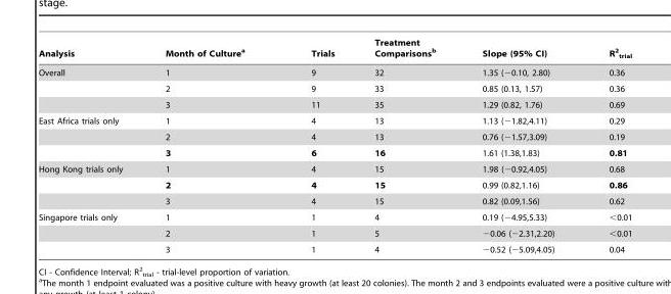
<table><thead><tr><td>Analysis</td><td>Month of Culture<sup>a</sup></td><td>Trials</td><td>Treatment Comparisons<sup>b</sup></td><td>Slope (95% CI)</td><td>R<sup>2</sup> <sub>trial</sub></td></tr></thead><tbody><tr><td rowspan="3">Overall</td><td>1</td><td>9</td><td>32</td><td>1.35 (−0.10, 2.80)</td><td>0.36</td></tr><tr><td>2</td><td>9</td><td>33</td><td>0.85 (0.13, 1.57)</td><td>0.36</td></tr><tr><td>3</td><td>11</td><td>35</td><td>1.29 (0.82, 1.76)</td><td>0.69</td></tr><tr><td rowspan="3">East Africa trials only</td><td>1</td><td>4</td><td>13</td><td>1.13 (−1.82,4.11)</td><td>0.29</td></tr><tr><td>2</td><td>4</td><td>13</td><td>0.76 (−1.57,3.09)</td><td>0.19</td></tr><tr><td>3</td><td>6</td><td>16</td><td>1.61 (1.38,1.83)</td><td>0.81</td></tr><tr><td rowspan="3">Hong Kong trials only</td><td>1</td><td>4</td><td>15</td><td>1.98 (−0.92,4.05)</td><td>0.68</td></tr><tr><td>2</td><td>4</td><td>15</td><td>0.99 (0.82,1.16)</td><td>0.86</td></tr><tr><td>3</td><td>4</td><td>15</td><td>0.82 (0.09,1.56)</td><td>0.62</td></tr><tr><td rowspan="3">Singapore trials only</td><td>1</td><td>1</td><td>4</td><td>0.19 (−4.95,5.33)</td><td>&lt;0.01</td></tr><tr><td>2</td><td>1</td><td>5</td><td>−0.06 (−2.31,2.20)</td><td>&lt;0.01</td></tr><tr><td>3</td><td>1</td><td>4</td><td>−0.52 (−5.09,4.05)</td><td>0.04</td></tr></tbody></table>